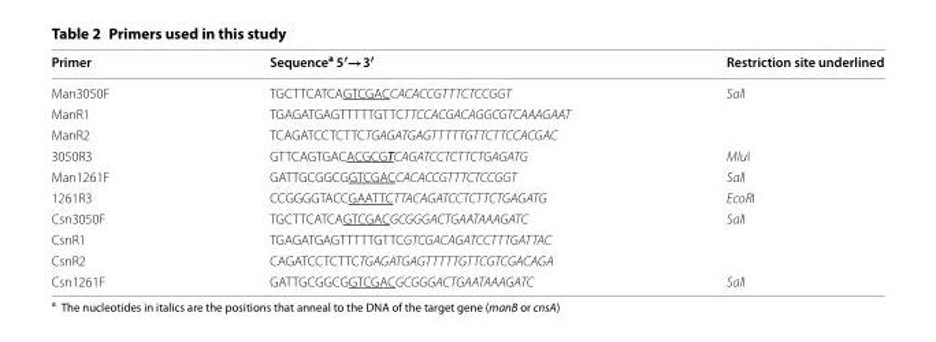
<table><thead><tr><td>Primer</td><td>Sequence<sup>a</sup> 5′→3′</td><td>Restriction site underlined</td></tr></thead><tbody><tr><td>Man3050F</td><td>TGCTTCATCAGTCGACCACACCGTTTCTCCGGT</td><td>SalI</td></tr><tr><td>ManR1</td><td>TGAGATGAGTTTTTGTTCTTCCACGACAGGCGTCAAAGAAT</td><td></td></tr><tr><td>ManR2</td><td>TCAGATCCTCTTCTGAGATGAGTTTTTGTTCTTCCACGAC</td><td></td></tr><tr><td>3050R3</td><td>GTTCAGTGACACGCGTCAGATCCTCTTCTGAGATG</td><td>MluI</td></tr><tr><td>Man1261F</td><td>GATTGCGGCGGTCGACCACACCGTTTCTCCGGT</td><td>SalI</td></tr><tr><td>1261R3</td><td>CCGGGGTACCGAATTCTTACAGATCCTCTTCTGAGATG</td><td>EcoRI</td></tr><tr><td>Csn3050F</td><td>TGCTTCATCAGTCGACGCGGGACTGAATAAAGATC</td><td>SalI</td></tr><tr><td>CsnR1</td><td>TGAGATGAGTTTTTGTTCGTCGACAGATCCTTTGATTAC</td><td></td></tr><tr><td>CsnR2</td><td>CAGATCCTCTTCTGAGATGAGTTTTTGTTCGTCGACAGA</td><td></td></tr><tr><td>Csn1261F</td><td>GATTGCGGCGGTCGACGCGGGACTGAATAAAGATC</td><td>SalI</td></tr></tbody></table>